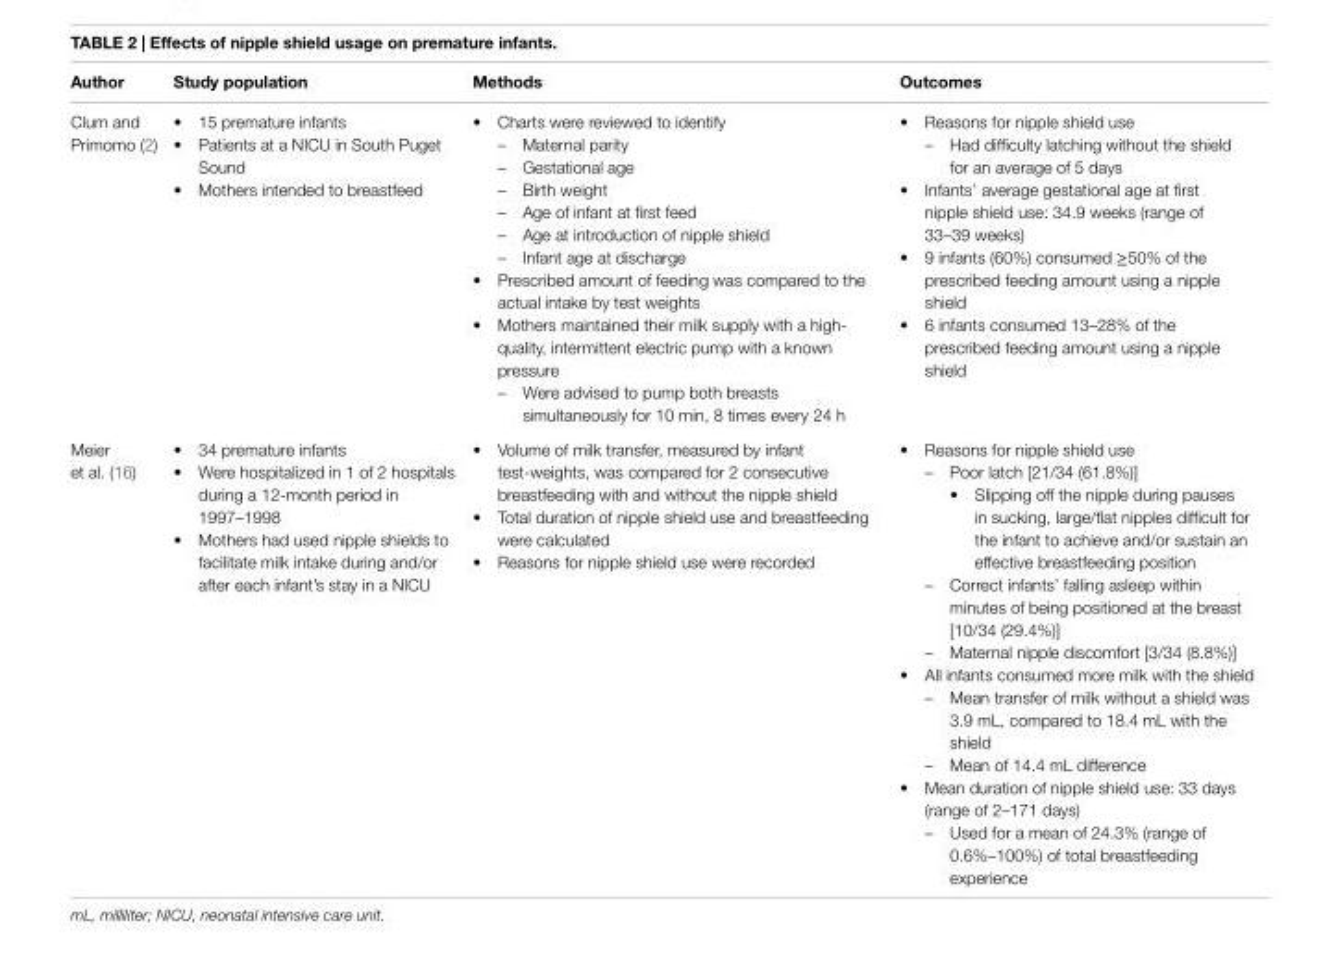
<table><thead><tr><td>Author</td><td>Study population</td><td>Methods</td><td>Outcomes</td></tr></thead><tbody><tr><td>Clum and Primomo (2)</td><td>• 15 premature infants • Patients at a NICU in South Puget Sound • Mothers intended to breastfeed</td><td>• Charts were reviewed to identify – Maternal parity – Gestational age – Birth weight – Age of infant at first feed – Age at introduction of nipple shield – Infant age at discharge • Prescribed amount of feeding was compared to the actual intake by test weights • Mothers maintained their milk supply with a high- quality, intermittent electric pump with a known pressure – Were advised to pump both breasts simultaneously for 10 min, 8 times every 24 h</td><td>• Reasons for nipple shield use – Had difficulty latching without the shield for an average of 5 days • Infants’ average gestational age at first nipple shield use: 34.9 weeks (range of 33–39 weeks) • 9 infants (60%) consumed ≥50% of the prescribed feeding amount using a nipple shield • 6 infants consumed 13–28% of the prescribed feeding amount using a nipple shield</td></tr><tr><td>Meier et al. (16)</td><td>• 34 premature infants • Were hospitalized in 1 of 2 hospitals during a 12-month period in 1997–1998 • Mothers had used nipple shields to facilitate milk intake during and/or after each infant’s stay in a NICU</td><td>• Volume of milk transfer, measured by infant test-weights, was compared for 2 consecutive breastfeeding with and without the nipple shield • Total duration of nipple shield use and breastfeeding were calculated • Reasons for nipple shield use were recorded</td><td>• Reasons for nipple shield use – Poor latch [21/34 (61.8%)] • Slipping off the nipple during pauses in sucking, large/flat nipples difficult for the infant to achieve and/or sustain an effective breastfeeding position – Correct infants’ falling asleep within minutes of being positioned at the breast [10/34 (29.4%)] – Maternal nipple discomfort [3/34 (8.8%)] • All infants consumed more milk with the shield – Mean transfer of milk without a shield was 3.9 mL, compared to 18.4 mL with the shield – Mean of 14.4 mL difference • Mean duration of nipple shield use: 33 days (range of 2–171 days) – Used for a mean of 24.3% (range of 0.6%–100%) of total breastfeeding experience</td></tr></tbody></table>